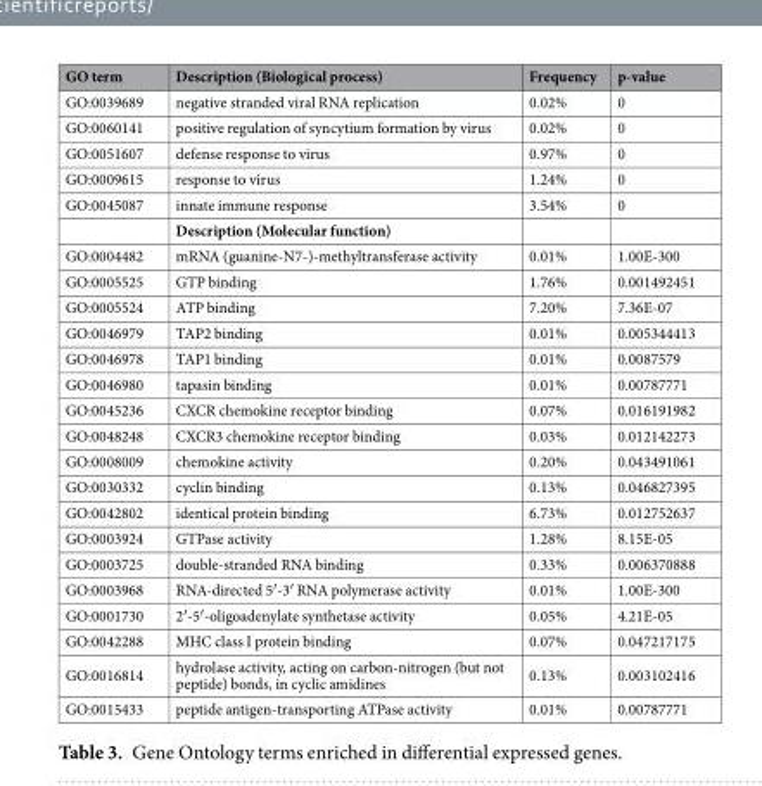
<table><thead><tr><td>GO term</td><td>Description (Biological process)</td><td>Frequency</td><td>p-value</td></tr></thead><tbody><tr><td>GO:0039689</td><td>negative stranded viral RNA replication</td><td>0.02%</td><td>0</td></tr><tr><td>GO:0060141</td><td>positive regulation of syncytium formation by virus</td><td>0.02%</td><td>0</td></tr><tr><td>GO:0051607</td><td>defense response to virus</td><td>0.97%</td><td>0</td></tr><tr><td>GO:0009615</td><td>response to virus</td><td>1.24%</td><td>0</td></tr><tr><td rowspan="2">GO:0045087</td><td>innate immune response</td><td>3.54%</td><td>0</td></tr><tr><td>Description (Molecular function)</td><td></td><td></td></tr><tr><td>GO:0004482</td><td>mRNA (guanine-N7-)-methyltransferase activity</td><td>0.01%</td><td>1.00E-300</td></tr><tr><td>GO:0005525</td><td>GTP binding</td><td>1.76%</td><td>0.001492451</td></tr><tr><td>GO:0005524</td><td>ATP binding</td><td>7.20%</td><td>7.36E-07</td></tr><tr><td>GO:0046979</td><td>TAP2 binding</td><td>0.01%</td><td>0.005344413</td></tr><tr><td>GO:0046978</td><td>TAP1 binding</td><td>0.01%</td><td>0.0087579</td></tr><tr><td>GO:0046980</td><td>tapasin binding</td><td>0.01%</td><td>0.00787771</td></tr><tr><td>GO:0045236</td><td>CXCR chemokine receptor binding</td><td>0.07%</td><td>0.016191982</td></tr><tr><td>GO:0048248</td><td>CXCR3 chemokine receptor binding</td><td>0.03%</td><td>0.012142273</td></tr><tr><td>GO:0008009</td><td>chemokine activity</td><td>0.20%</td><td>0.043491061</td></tr><tr><td>GO:0030332</td><td>cyclin binding</td><td>0.13%</td><td>0.046827395</td></tr><tr><td>GO:0042802</td><td>identical protein binding</td><td>6.73%</td><td>0.012752637</td></tr><tr><td>GO:0003924</td><td>GTPase activity</td><td>1.28%</td><td>8.15E-05</td></tr><tr><td>GO:0003725</td><td>double-stranded RNA binding</td><td>0.33%</td><td>0.006370888</td></tr><tr><td>GO:0003968</td><td>RNA-directed 5′-3′ RNA polymerase activity</td><td>0.01%</td><td>1.00E-300</td></tr><tr><td>GO:0001730</td><td>2′-5′-oligoadenylate synthetase activity</td><td>0.05%</td><td>4.21E-05</td></tr><tr><td>GO:0042288</td><td>MHC class I protein binding</td><td>0.07%</td><td>0.047217175</td></tr><tr><td>GO:0016814</td><td>hydrolase activity, acting on carbon-nitrogen (but not peptide) bonds, in cyclic amidines</td><td>0.13%</td><td>0.003102416</td></tr><tr><td>GO:0015433</td><td>peptide antigen-transporting ATPase activity</td><td>0.01%</td><td>0.00787771</td></tr></tbody></table>